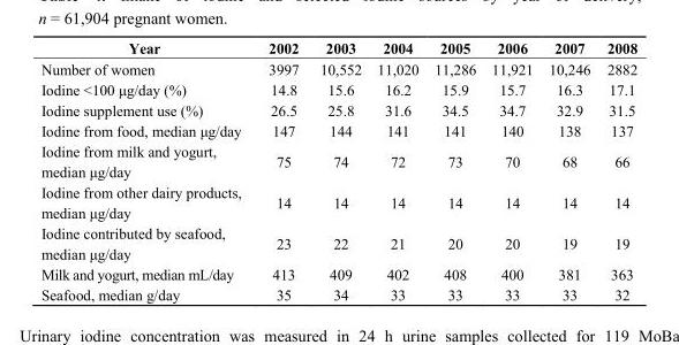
<table><thead><tr><td>Year</td><td>2002</td><td>2003</td><td>2004</td><td>2005</td><td>2006</td><td>2007</td><td>2008</td></tr></thead><tbody><tr><td>Number of women</td><td>3997</td><td>10,552</td><td>11,020</td><td>11,286</td><td>11,921</td><td>10,246</td><td>2882</td></tr><tr><td>Iodine &lt;100 μg/day (%)</td><td>14.8</td><td>15.6</td><td>16.2</td><td>15.9</td><td>15.7</td><td>16.3</td><td>17.1</td></tr><tr><td>Iodine supplement use (%)</td><td>26.5</td><td>25.8</td><td>31.6</td><td>34.5</td><td>34.7</td><td>32.9</td><td>31.5</td></tr><tr><td>Iodine from food, median μg/day</td><td>147</td><td>144</td><td>141</td><td>141</td><td>140</td><td>138</td><td>137</td></tr><tr><td>Iodine from milk and yogurt, median μg/day</td><td>75</td><td>74</td><td>72</td><td>73</td><td>70</td><td>68</td><td>66</td></tr><tr><td>Iodine from other dairy products, median μg/day</td><td>14</td><td>14</td><td>14</td><td>14</td><td>14</td><td>14</td><td>14</td></tr><tr><td>Iodine contributed by seafood, median μg/day</td><td>23</td><td>22</td><td>21</td><td>20</td><td>20</td><td>19</td><td>19</td></tr><tr><td>Milk and yogurt, median mL/day</td><td>413</td><td>409</td><td>402</td><td>408</td><td>400</td><td>381</td><td>363</td></tr><tr><td>Seafood, median g/day</td><td>35</td><td>34</td><td>33</td><td>33</td><td>33</td><td>33</td><td>32</td></tr></tbody></table>